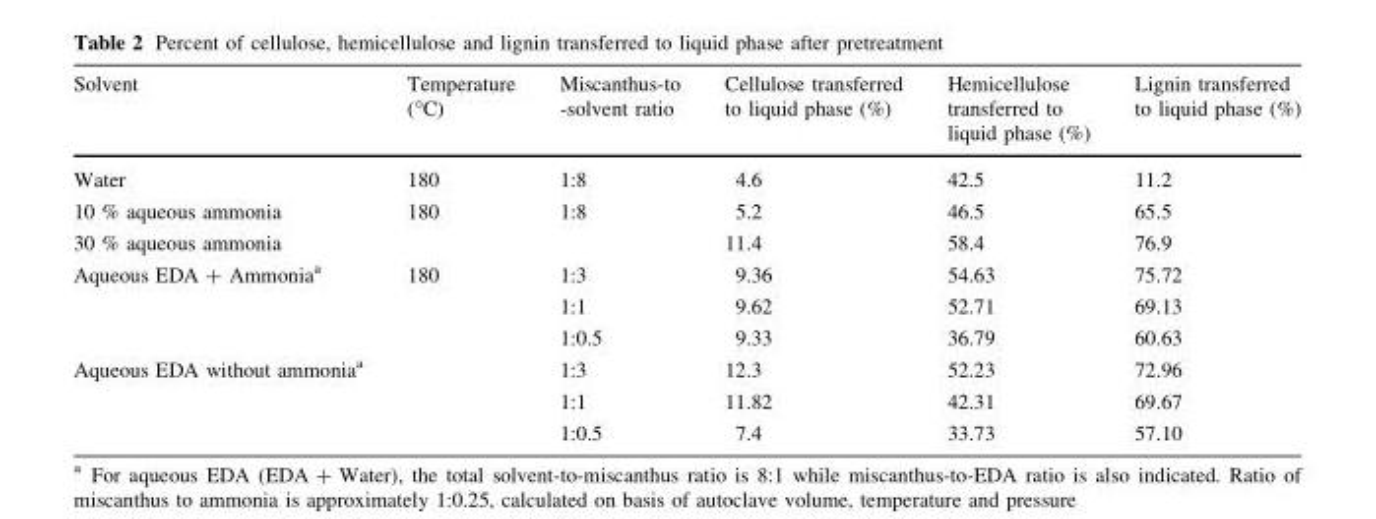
<table><thead><tr><td>Solvent</td><td>Temperature (°C)</td><td>Miscanthus-to -solvent ratio</td><td>Cellulose transferred to liquid phase (%)</td><td>Hemicellulose transferred to liquid phase (%)</td><td>Lignin transferred to liquid phase (%)</td></tr></thead><tbody><tr><td>Water</td><td>180</td><td>1:8</td><td>4.6</td><td>42.5</td><td>11.2</td></tr><tr><td>10 % aqueous ammonia</td><td rowspan="2">180</td><td rowspan="2">1:8</td><td>5.2</td><td>46.5</td><td>65.5</td></tr><tr><td>30 % aqueous ammonia</td><td>11.4</td><td>58.4</td><td>76.9</td></tr><tr><td rowspan="3">Aqueous EDA + Ammonia<sup>a</sup></td><td rowspan="6">180</td><td>1:3</td><td>9.36</td><td>54.63</td><td>75.72</td></tr><tr><td>1:1</td><td>9.62</td><td>52.71</td><td>69.13</td></tr><tr><td>1:0.5</td><td>9.33</td><td>36.79</td><td>60.63</td></tr><tr><td rowspan="3">Aqueous EDA without ammonia<sup>a</sup></td><td>1:3</td><td>12.3</td><td>52.23</td><td>72.96</td></tr><tr><td>1:1</td><td>11.82</td><td>42.31</td><td>69.67</td></tr><tr><td>1:0.5</td><td>7.4</td><td>33.73</td><td>57.10</td></tr></tbody></table>